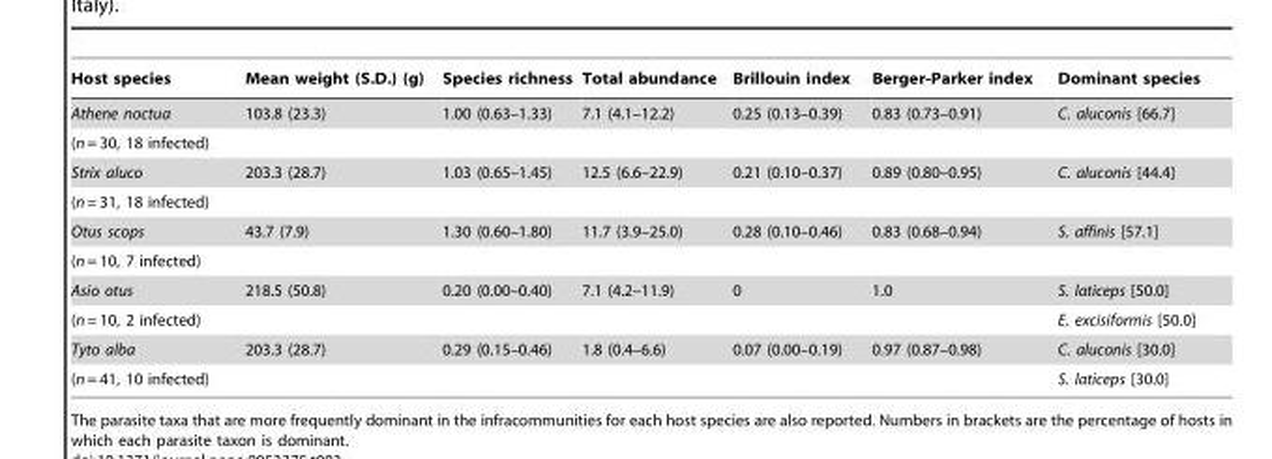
<table><thead><tr><td>Host species</td><td>Mean weight (S.D.) (g)</td><td>Species richness</td><td>Total abundance</td><td>Brillouin index</td><td>Berger-Parker index</td><td>Dominant species</td></tr></thead><tbody><tr><td>Athene noctua</td><td>103.8 (23.3)</td><td>1.00 (0.63–1.33)</td><td>7.1 (4.1–12.2)</td><td>0.25 (0.13–0.39)</td><td>0.83 (0.73–0.91)</td><td>C. aluconis [66.7]</td></tr><tr><td colspan="7">(n = 30, 18 infected)</td></tr><tr><td>Strix aluco</td><td>203.3 (28.7)</td><td>1.03 (0.65–1.45)</td><td>12.5 (6.6–22.9)</td><td>0.21 (0.10–0.37)</td><td>0.89 (0.80–0.95)</td><td>C. aluconis [44.4]</td></tr><tr><td colspan="7">(n = 31, 18 infected)</td></tr><tr><td>Otus scops</td><td>43.7 (7.9)</td><td>1.30 (0.60–1.80)</td><td>11.7 (3.9–25.0)</td><td>0.28 (0.10–0.46)</td><td>0.83 (0.68–0.94)</td><td>S. affinis [57.1]</td></tr><tr><td colspan="7">(n = 10, 7 infected)</td></tr><tr><td>Asio otus</td><td>218.5 (50.8)</td><td>0.20 (0.00–0.40)</td><td>7.1 (4.2–11.9)</td><td>0</td><td>1.0</td><td>S. laticeps [50.0]</td></tr><tr><td>(n = 10, 2 infected)</td><td></td><td></td><td></td><td></td><td></td><td>E. excisiformis [50.0]</td></tr><tr><td>Tyto alba</td><td>203.3 (28.7)</td><td>0.29 (0.15–0.46)</td><td>1.8 (0.4–6.6)</td><td>0.07 (0.00–0.19)</td><td>0.97 (0.87–0.98)</td><td>C. aluconis [30.0]</td></tr><tr><td>(n = 41, 10 infected)</td><td></td><td></td><td></td><td></td><td></td><td>S. laticeps [30.0]</td></tr></tbody></table>